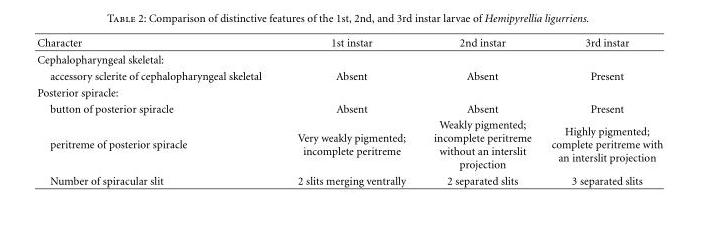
<table><thead><tr><td>Character</td><td>1st instar</td><td>2nd instar</td><td>3rd instar</td></tr></thead><tbody><tr><td colspan="4">Cephalopharyngeal skeletal:</td></tr><tr><td>accessory sclerite of cephalopharyngeal skeletal</td><td>Absent</td><td>Absent</td><td>Present</td></tr><tr><td colspan="4">Posterior spiracle:</td></tr><tr><td>button of posterior spiracle</td><td>Absent</td><td>Absent</td><td>Present</td></tr><tr><td>peritreme of posterior spiracle</td><td>Very weakly pigmented; incomplete peritreme</td><td>Weakly pigmented; incomplete peritreme without an interslit projection</td><td>Highly pigmented; complete peritreme with an interslit projection</td></tr><tr><td>Number of spiracular slit</td><td>2 slits merging ventrally</td><td>2 separated slits</td><td>3 separated slits</td></tr></tbody></table>